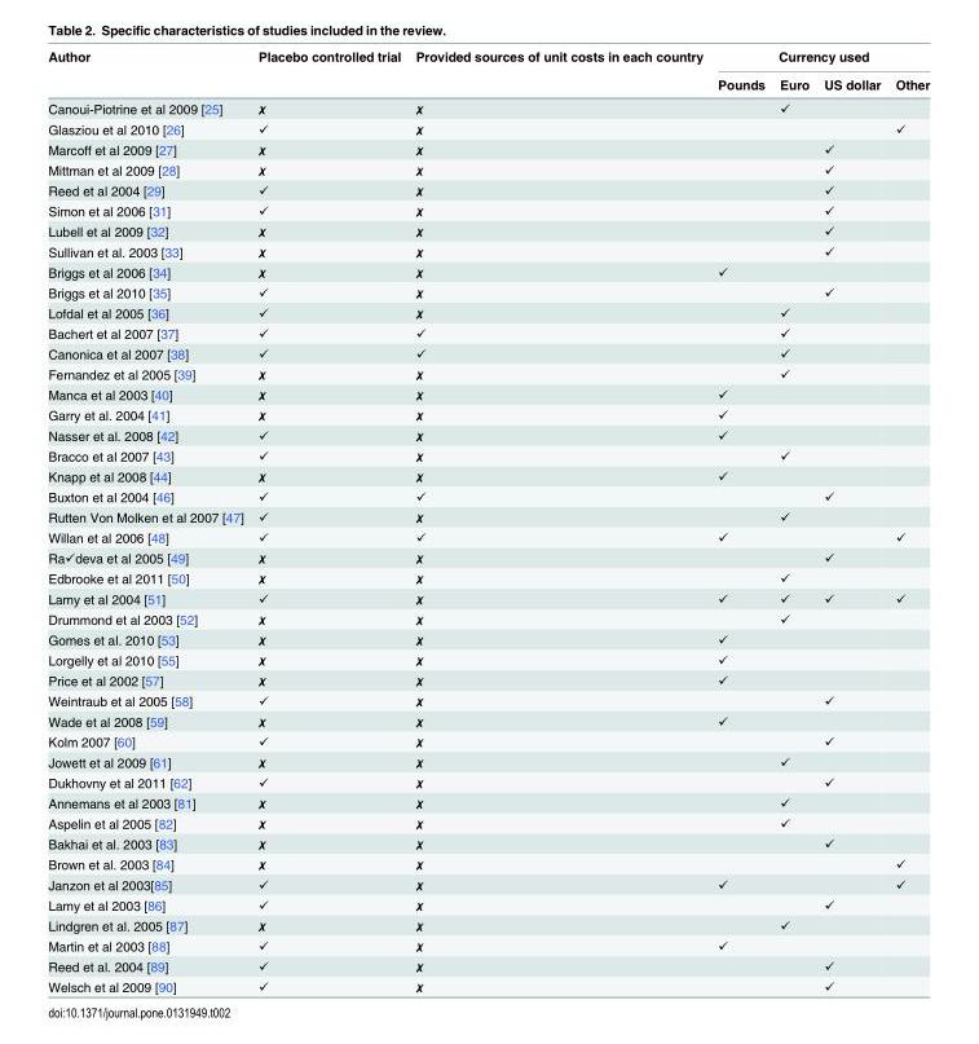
<table><thead><tr><td rowspan="2">Author</td><td rowspan="2">Placebo controlled trial</td><td rowspan="2">Provided sources of unit costs in each country</td><td colspan="4">Currency used</td></tr><tr><td>Pounds</td><td>Euro</td><td>US dollar</td><td>Other</td></tr></thead><tbody><tr><td>Canoui-Piotrine et al 2009 [25]</td><td>✗</td><td>✗</td><td></td><td>✓</td><td></td><td></td></tr><tr><td>Glasziou et al 2010 [26]</td><td>✓</td><td>✗</td><td></td><td></td><td></td><td>✓</td></tr><tr><td>Marcoff et al 2009 [27]</td><td>✗</td><td>✗</td><td></td><td></td><td>✓</td><td></td></tr><tr><td>Mittman et al 2009 [28]</td><td>✗</td><td>✗</td><td></td><td></td><td>✓</td><td></td></tr><tr><td>Reed et al 2004 [29]</td><td>✓</td><td>✗</td><td></td><td></td><td>✓</td><td></td></tr><tr><td>Simon et al 2006 [31]</td><td>✓</td><td>✗</td><td></td><td></td><td>✓</td><td></td></tr><tr><td>Lubell et al 2009 [32]</td><td>✗</td><td>✗</td><td></td><td></td><td>✓</td><td></td></tr><tr><td>Sullivan et al. 2003 [33]</td><td>✗</td><td>✗</td><td></td><td></td><td>✓</td><td></td></tr><tr><td>Briggs et al 2006 [34]</td><td>✗</td><td>✗</td><td>✓</td><td></td><td></td><td></td></tr><tr><td>Briggs et al 2010 [35]</td><td>✓</td><td>✗</td><td></td><td></td><td>✓</td><td></td></tr><tr><td>Lofdal et al 2005 [36]</td><td>✓</td><td>✗</td><td></td><td>✓</td><td></td><td></td></tr><tr><td>Bachert et al 2007 [37]</td><td>✓</td><td>✓</td><td></td><td>✓</td><td></td><td></td></tr><tr><td>Canonica et al 2007 [38]</td><td>✓</td><td>✓</td><td></td><td>✓</td><td></td><td></td></tr><tr><td>Fernandez et al 2005 [39]</td><td>✗</td><td>✗</td><td></td><td>✓</td><td></td><td></td></tr><tr><td>Manca et al 2003 [40]</td><td>✗</td><td>✗</td><td>✓</td><td></td><td></td><td></td></tr><tr><td>Garry et al. 2004 [41]</td><td>✗</td><td>✗</td><td>✓</td><td></td><td></td><td></td></tr><tr><td>Nasser et al. 2008 [42]</td><td>✓</td><td>✗</td><td>✓</td><td></td><td></td><td></td></tr><tr><td>Bracco et al 2007 [43]</td><td>✓</td><td>✗</td><td></td><td>✓</td><td></td><td></td></tr><tr><td>Knapp et al 2008 [44]</td><td>✗</td><td>✗</td><td>✓</td><td></td><td></td><td></td></tr><tr><td>Buxton et al 2004 [46]</td><td>✓</td><td>✓</td><td></td><td></td><td>✓</td><td></td></tr><tr><td>Rutten Von Molken et al 2007 [47]</td><td>✓</td><td>✗</td><td></td><td>✓</td><td></td><td></td></tr><tr><td>Willan et al 2006 [48]</td><td>✓</td><td>✓</td><td>✓</td><td></td><td></td><td>✓</td></tr><tr><td>Ra✓deva et al 2005 [49]</td><td>✗</td><td>✗</td><td></td><td></td><td>✓</td><td></td></tr><tr><td>Edbrooke et al 2011 [50]</td><td>✗</td><td>✗</td><td></td><td>✓</td><td></td><td></td></tr><tr><td>Lamy et al 2004 [51]</td><td>✓</td><td>✗</td><td>✓</td><td>✓</td><td>✓</td><td>✓</td></tr><tr><td>Drummond et al 2003 [52]</td><td>✗</td><td>✗</td><td></td><td>✓</td><td></td><td></td></tr><tr><td>Gomes et al. 2010 [53]</td><td>✗</td><td>✗</td><td>✓</td><td></td><td></td><td></td></tr><tr><td>Lorgelly et al 2010 [55]</td><td>✗</td><td>✗</td><td>✓</td><td></td><td></td><td></td></tr><tr><td>Price et al 2002 [57]</td><td>✗</td><td>✗</td><td>✓</td><td></td><td></td><td></td></tr><tr><td>Weintraub et al 2005 [58]</td><td>✓</td><td>✗</td><td></td><td></td><td>✓</td><td></td></tr><tr><td>Wade et al 2008 [59]</td><td>✗</td><td>✗</td><td>✓</td><td></td><td></td><td></td></tr><tr><td>Kolm 2007 [60]</td><td>✓</td><td>✗</td><td></td><td></td><td>✓</td><td></td></tr><tr><td>Jowett et al 2009 [61]</td><td>✗</td><td>✗</td><td></td><td>✓</td><td></td><td></td></tr><tr><td>Dukhovny et al 2011 [62]</td><td>✓</td><td>✗</td><td></td><td></td><td>✓</td><td></td></tr><tr><td>Annemans et al 2003 [81]</td><td>✗</td><td>✗</td><td></td><td>✓</td><td></td><td></td></tr><tr><td>Aspelin et al 2005 [82]</td><td>✗</td><td>✗</td><td></td><td>✓</td><td></td><td></td></tr><tr><td>Bakhai et al. 2003 [83]</td><td>✗</td><td>✗</td><td></td><td></td><td>✓</td><td></td></tr><tr><td>Brown et al. 2003 [84]</td><td>✗</td><td>✗</td><td></td><td></td><td></td><td>✓</td></tr><tr><td>Janzon et al 2003[85]</td><td>✓</td><td>✗</td><td>✓</td><td></td><td></td><td>✓</td></tr><tr><td>Lamy et al 2003 [86]</td><td>✓</td><td>✗</td><td></td><td></td><td>✓</td><td></td></tr><tr><td>Lindgren et al. 2005 [87]</td><td>✗</td><td>✗</td><td></td><td>✓</td><td></td><td></td></tr><tr><td>Martin et al 2003 [88]</td><td>✓</td><td>✗</td><td>✓</td><td></td><td></td><td></td></tr><tr><td>Reed et al. 2004 [89]</td><td>✓</td><td>✗</td><td></td><td></td><td>✓</td><td></td></tr><tr><td>Welsch et al 2009 [90]</td><td>✓</td><td>✗</td><td></td><td></td><td>✓</td><td></td></tr></tbody></table>